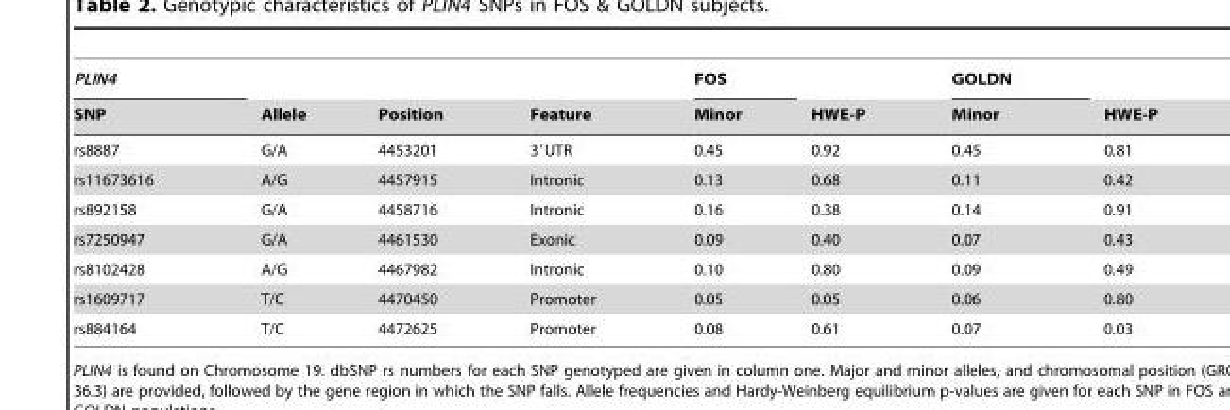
<table><thead><tr><td rowspan="2">PLIN4 SNP</td><td rowspan="2">Allele</td><td rowspan="2">Position</td><td rowspan="2">Feature</td><td rowspan="2">FOS Minor</td><td rowspan="2">HWE-P</td><td rowspan="2">GOLDN Minor</td><td rowspan="2">HWE-P</td></tr><tr></tr></thead><tbody><tr><td>rs8887</td><td>G/A</td><td>4453201</td><td>3′UTR</td><td>0.45</td><td>0.92</td><td>0.45</td><td>0.81</td></tr><tr><td>rs11673616</td><td>A/G</td><td>4457915</td><td>Intronic</td><td>0.13</td><td>0.68</td><td>0.11</td><td>0.42</td></tr><tr><td>rs892158</td><td>G/A</td><td>4458716</td><td>Intronic</td><td>0.16</td><td>0.38</td><td>0.14</td><td>0.91</td></tr><tr><td>rs7250947</td><td>G/A</td><td>4461530</td><td>Exonic</td><td>0.09</td><td>0.40</td><td>0.07</td><td>0.43</td></tr><tr><td>rs8102428</td><td>A/G</td><td>4467982</td><td>Intronic</td><td>0.10</td><td>0.80</td><td>0.09</td><td>0.49</td></tr><tr><td>rs1609717</td><td>T/C</td><td>4470450</td><td>Promoter</td><td>0.05</td><td>0.05</td><td>0.06</td><td>0.80</td></tr><tr><td>rs884164</td><td>T/C</td><td>4472625</td><td>Promoter</td><td>0.08</td><td>0.61</td><td>0.07</td><td>0.03</td></tr></tbody></table>